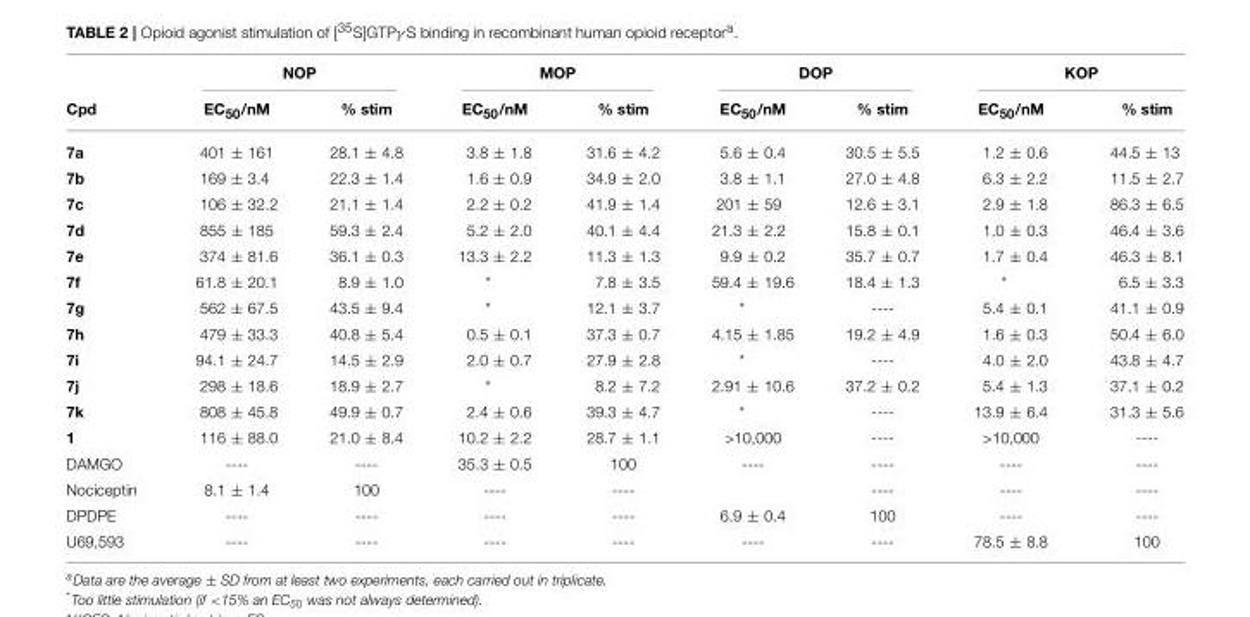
<table><thead><tr><td rowspan="2">Cpd</td><td colspan="2">NOP</td><td colspan="2">MOP</td><td colspan="2">DOP</td><td colspan="2">KOP</td></tr><tr><td>EC<sub>50</sub>/nM</td><td>% stim</td><td>EC<sub>50</sub>/nM</td><td>% stim</td><td>EC<sub>50</sub>/nM</td><td>% stim</td><td>EC<sub>50</sub>/nM</td><td>% stim</td></tr></thead><tbody><tr><td>7a</td><td>401 ± 161</td><td>28.1 ± 4.8</td><td>3.8 ± 1.8</td><td>31.6 ± 4.2</td><td>5.6 ± 0.4</td><td>30.5 ± 5.5</td><td>1.2 ± 0.6</td><td>44.5 ± 13</td></tr><tr><td>7b</td><td>169 ± 3.4</td><td>22.3 ± 1.4</td><td>1.6 ± 0.9</td><td>34.9 ± 2.0</td><td>3.8 ± 1.1</td><td>27.0 ± 4.8</td><td>6.3 ± 2.2</td><td>11.5 ± 2.7</td></tr><tr><td>7c</td><td>106 ± 32.2</td><td>21.1 ± 1.4</td><td>2.2 ± 0.2</td><td>41.9 ± 1.4</td><td>201 ± 59</td><td>12.6 ± 3.1</td><td>2.9 ± 1.8</td><td>86.3 ± 6.5</td></tr><tr><td>7d</td><td>855 ± 185</td><td>59.3 ± 2.4</td><td>5.2 ± 2.0</td><td>40.1 ± 4.4</td><td>21.3 ± 2.2</td><td>15.8 ± 0.1</td><td>1.0 ± 0.3</td><td>46.4 ± 3.6</td></tr><tr><td>7e</td><td>374 ± 81.6</td><td>36.1 ± 0.3</td><td>13.3 ± 2.2</td><td>11.3 ± 1.3</td><td>9.9 ± 0.2</td><td>35.7 ± 0.7</td><td>1.7 ± 0.4</td><td>46.3 ± 8.1</td></tr><tr><td>7f</td><td>61.8 ± 20.1</td><td>8.9 ± 1.0</td><td>*</td><td>7.8 ± 3.5</td><td>59.4 ± 19.6</td><td>18.4 ± 1.3</td><td>*</td><td>6.5 ± 3.3</td></tr><tr><td>7g</td><td>562 ± 67.5</td><td>43.5 ± 9.4</td><td>*</td><td>12.1 ± 3.7</td><td>*</td><td>----</td><td>5.4 ± 0.1</td><td>41.1 ± 0.9</td></tr><tr><td>7h</td><td>479 ± 33.3</td><td>40.8 ± 5.4</td><td>0.5 ± 0.1</td><td>37.3 ± 0.7</td><td>4.15 ± 1.85</td><td>19.2 ± 4.9</td><td>1.6 ± 0.3</td><td>50.4 ± 6.0</td></tr><tr><td>7i</td><td>94.1 ± 24.7</td><td>14.5 ± 2.9</td><td>2.0 ± 0.7</td><td>27.9 ± 2.8</td><td>*</td><td>----</td><td>4.0 ± 2.0</td><td>43.8 ± 4.7</td></tr><tr><td>7j</td><td>298 ± 18.6</td><td>18.9 ± 2.7</td><td>*</td><td>8.2 ± 7.2</td><td>2.91 ± 10.6</td><td>37.2 ± 0.2</td><td>5.4 ± 1.3</td><td>37.1 ± 0.2</td></tr><tr><td>7k</td><td>808 ± 45.8</td><td>49.9 ± 0.7</td><td>2.4 ± 0.6</td><td>39.3 ± 4.7</td><td>*</td><td>----</td><td>13.9 ± 6.4</td><td>31.3 ± 5.6</td></tr><tr><td>1</td><td>116 ± 88.0</td><td>21.0 ± 8.4</td><td>10.2 ± 2.2</td><td>28.7 ± 1.1</td><td>&gt;10,000</td><td>----</td><td>&gt;10,000</td><td>----</td></tr><tr><td>DAMGO</td><td>----</td><td>----</td><td>35.3 ± 0.5</td><td>100</td><td>----</td><td>----</td><td>----</td><td>----</td></tr><tr><td>Nociceptin</td><td>8.1 ± 1.4</td><td>100</td><td>----</td><td>----</td><td></td><td>----</td><td>----</td><td>----</td></tr><tr><td>DPDPE</td><td>----</td><td>----</td><td>----</td><td>----</td><td>6.9 ± 0.4</td><td>100</td><td>----</td><td>----</td></tr><tr><td>U69,593</td><td>----</td><td>----</td><td>----</td><td>----</td><td>----</td><td>----</td><td>78.5 ± 8.8</td><td>100</td></tr></tbody></table>